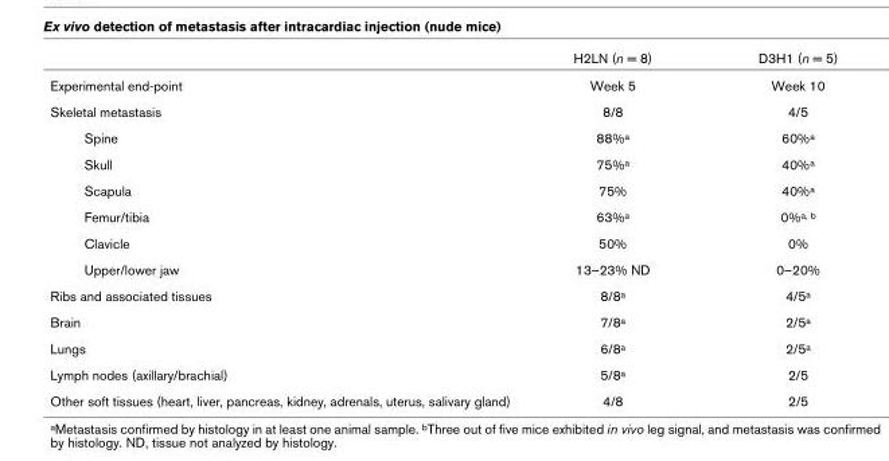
<table><thead><tr><td></td><td>H2LN (n = 8)</td><td>D3H1 (n = 5)</td></tr></thead><tbody><tr><td>Experimental end-point</td><td>Week 5</td><td>Week 10</td></tr><tr><td>Skeletal metastasis</td><td>8/8</td><td>4/5</td></tr><tr><td>Spine</td><td>88%a</td><td>60%a</td></tr><tr><td>Skull</td><td>75%a</td><td>40%a</td></tr><tr><td>Scapula</td><td>75%</td><td>40%a</td></tr><tr><td>Femur/tibia</td><td>63%a</td><td>0%a, b</td></tr><tr><td>Clavicle</td><td>50%</td><td>0%</td></tr><tr><td>Upper/lower jaw</td><td>13–23% ND</td><td>0–20%</td></tr><tr><td>Ribs and associated tissues</td><td>8/8a</td><td>4/5a</td></tr><tr><td>Brain</td><td>7/8a</td><td>2/5a</td></tr><tr><td>Lungs</td><td>6/8a</td><td>2/5a</td></tr><tr><td>Lymph nodes (axillary/brachial)</td><td>5/8a</td><td>2/5</td></tr><tr><td>Other soft tissues (heart, liver, pancreas, kidney, adrenals, uterus, salivary gland)</td><td>4/8</td><td>2/5</td></tr></tbody></table>